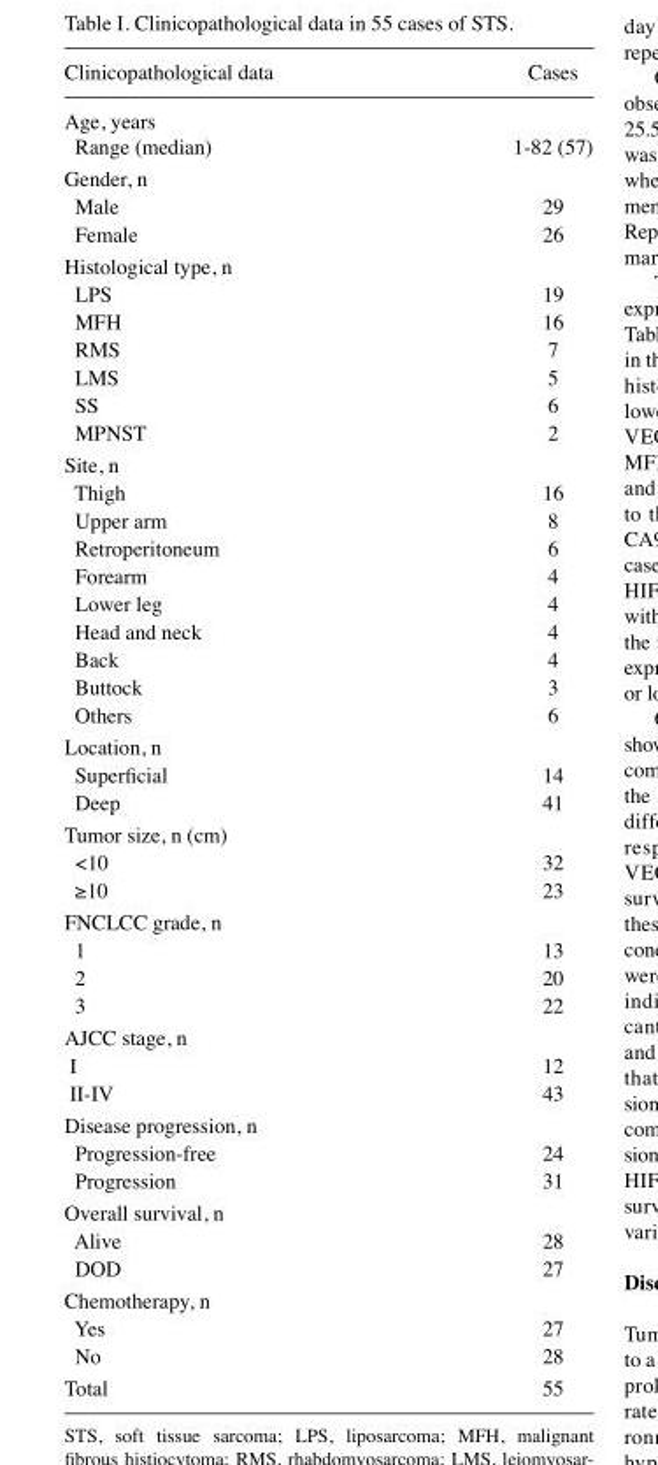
<table><thead><tr><td>Clinicopathological data</td><td>Cases</td></tr></thead><tbody><tr><td colspan="2">Age, years</td></tr><tr><td>Range (median)</td><td>1‑82 (57)</td></tr><tr><td colspan="2">Gender, n</td></tr><tr><td>Male</td><td>29</td></tr><tr><td>Female</td><td>26</td></tr><tr><td colspan="2">Histological type, n</td></tr><tr><td>LPS</td><td>19</td></tr><tr><td>MFH</td><td>16</td></tr><tr><td>RMS</td><td>7</td></tr><tr><td>LMS</td><td>5</td></tr><tr><td>SS</td><td>6</td></tr><tr><td>MPNST</td><td>2</td></tr><tr><td colspan="2">Site, n</td></tr><tr><td>Thigh</td><td>16</td></tr><tr><td>Upper arm</td><td>8</td></tr><tr><td>Retroperitoneum</td><td>6</td></tr><tr><td>Forearm</td><td>4</td></tr><tr><td>Lower leg</td><td>4</td></tr><tr><td>Head and neck</td><td>4</td></tr><tr><td>Back</td><td>4</td></tr><tr><td>Buttock</td><td>3</td></tr><tr><td>Others</td><td>6</td></tr><tr><td colspan="2">Location, n</td></tr><tr><td>Superficial</td><td>14</td></tr><tr><td>Deep</td><td>41</td></tr><tr><td colspan="2">Tumor size, n (cm)</td></tr><tr><td>&lt;10</td><td>32</td></tr><tr><td>≥10</td><td>23</td></tr><tr><td colspan="2">FNCLCC grade, n</td></tr><tr><td>1</td><td>13</td></tr><tr><td>2</td><td>20</td></tr><tr><td>3</td><td>22</td></tr><tr><td colspan="2">AJCC stage, n</td></tr><tr><td>I</td><td>12</td></tr><tr><td>II‑IV</td><td>43</td></tr><tr><td colspan="2">Disease progression, n</td></tr><tr><td>Progression‑free</td><td>24</td></tr><tr><td>Progression</td><td>31</td></tr><tr><td colspan="2">Overall survival, n</td></tr><tr><td>Alive</td><td>28</td></tr><tr><td>DOD</td><td>27</td></tr><tr><td colspan="2">Chemotherapy, n</td></tr><tr><td>Yes</td><td>27</td></tr><tr><td>No</td><td>28</td></tr><tr><td>Total</td><td>55</td></tr></tbody></table>